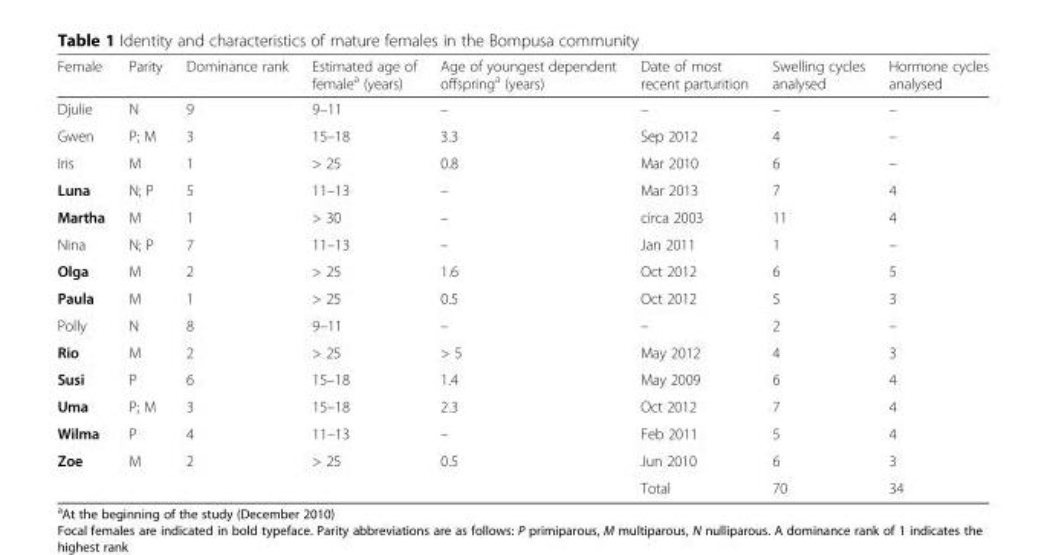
<table><thead><tr><td>Female</td><td>Parity</td><td>Dominance rank</td><td>Estimated age of female<sup>a</sup> (years)</td><td>Age of youngest dependent offspring<sup>a</sup> (years)</td><td>Date of most recent parturition</td><td>Swelling cycles analysed</td><td>Hormone cycles analysed</td></tr></thead><tbody><tr><td>Djulie</td><td>N</td><td>9</td><td>9–11</td><td>–</td><td>–</td><td>–</td><td>–</td></tr><tr><td>Gwen</td><td>P; M</td><td>3</td><td>15–18</td><td>3.3</td><td>Sep 2012</td><td>4</td><td>–</td></tr><tr><td>Iris</td><td>M</td><td>1</td><td>&gt; 25</td><td>0.8</td><td>Mar 2010</td><td>6</td><td>–</td></tr><tr><td>Luna</td><td>N; P</td><td>5</td><td>11–13</td><td>–</td><td>Mar 2013</td><td>7</td><td>4</td></tr><tr><td>Martha</td><td>M</td><td>1</td><td>&gt; 30</td><td>–</td><td>circa 2003</td><td>11</td><td>4</td></tr><tr><td>Nina</td><td>N; P</td><td>7</td><td>11–13</td><td>–</td><td>Jan 2011</td><td>1</td><td>–</td></tr><tr><td>Olga</td><td>M</td><td>2</td><td>&gt; 25</td><td>1.6</td><td>Oct 2012</td><td>6</td><td>5</td></tr><tr><td>Paula</td><td>M</td><td>1</td><td>&gt; 25</td><td>0.5</td><td>Oct 2012</td><td>5</td><td>3</td></tr><tr><td>Polly</td><td>N</td><td>8</td><td>9–11</td><td>–</td><td>–</td><td>2</td><td>–</td></tr><tr><td>Rio</td><td>M</td><td>2</td><td>&gt; 25</td><td>&gt; 5</td><td>May 2012</td><td>4</td><td>3</td></tr><tr><td>Susi</td><td>P</td><td>6</td><td>15–18</td><td>1.4</td><td>May 2009</td><td>6</td><td>4</td></tr><tr><td>Uma</td><td>P; M</td><td>3</td><td>15–18</td><td>2.3</td><td>Oct 2012</td><td>7</td><td>4</td></tr><tr><td>Wilma</td><td>P</td><td>4</td><td>11–13</td><td>–</td><td>Feb 2011</td><td>5</td><td>4</td></tr><tr><td rowspan="2">Zoe</td><td>M</td><td>2</td><td>&gt; 25</td><td>0.5</td><td>Jun 2010</td><td>6</td><td>3</td></tr><tr><td></td><td></td><td></td><td></td><td>Total</td><td>70</td><td>34</td></tr></tbody></table>